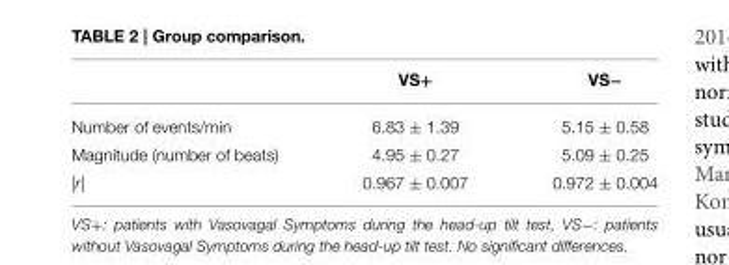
<table><thead><tr><td></td><td>VS+</td><td>VS−</td></tr></thead><tbody><tr><td>Number of events/min</td><td>6.83 ± 1.39</td><td>5.15 ± 0.58</td></tr><tr><td>Magnitude (number of beats)</td><td>4.95 ± 0.27</td><td>5.09 ± 0.25</td></tr><tr><td>|r|</td><td>0.967 ± 0.007</td><td>0.972 ± 0.004</td></tr></tbody></table>